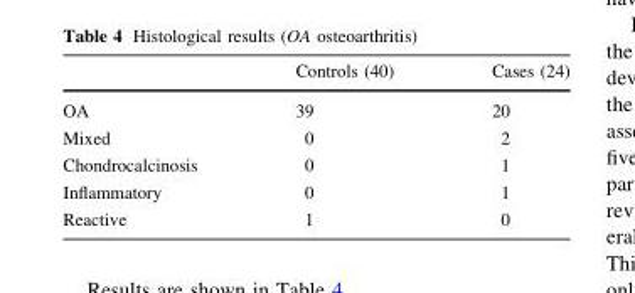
<table><thead><tr><td></td><td>Controls (40)</td><td>Cases (24)</td></tr></thead><tbody><tr><td>OA</td><td>39</td><td>20</td></tr><tr><td>Mixed</td><td>0</td><td>2</td></tr><tr><td>Chondrocalcinosis</td><td>0</td><td>1</td></tr><tr><td>Inflammatory</td><td>0</td><td>1</td></tr><tr><td>Reactive</td><td>1</td><td>0</td></tr></tbody></table>